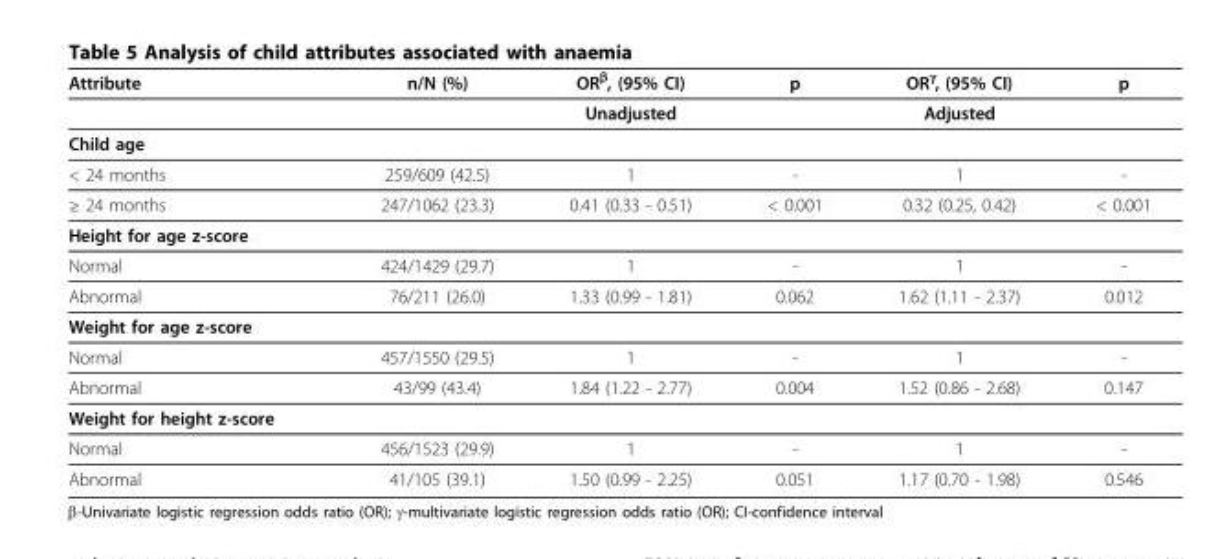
<table><thead><tr><td>Attribute</td><td>n/N (%)</td><td>ORβ, (95% CI)</td><td>p</td><td>ORγ, (95% CI)</td><td>p</td></tr></thead><tbody><tr><td></td><td></td><td>Unadjusted</td><td></td><td>Adjusted</td><td></td></tr><tr><td colspan="6">Child age</td></tr><tr><td>&lt; 24 months</td><td>259/609 (42.5)</td><td>1</td><td>-</td><td>1</td><td>-</td></tr><tr><td>≥ 24 months</td><td>247/1062 (23.3)</td><td>0.41 (0.33 - 0.51)</td><td>&lt; 0.001</td><td>0.32 (0.25, 0.42)</td><td>&lt; 0.001</td></tr><tr><td colspan="6">Height for age z-score</td></tr><tr><td>Normal</td><td>424/1429 (29.7)</td><td>1</td><td>-</td><td>1</td><td>-</td></tr><tr><td>Abnormal</td><td>76/211 (26.0)</td><td>1.33 (0.99 - 1.81)</td><td>0.062</td><td>1.62 (1.11 - 2.37)</td><td>0.012</td></tr><tr><td colspan="6">Weight for age z-score</td></tr><tr><td>Normal</td><td>457/1550 (29.5)</td><td>1</td><td>-</td><td>1</td><td>-</td></tr><tr><td>Abnormal</td><td>43/99 (43.4)</td><td>1.84 (1.22 - 2.77)</td><td>0.004</td><td>1.52 (0.86 - 2.68)</td><td>0.147</td></tr><tr><td colspan="6">Weight for height z-score</td></tr><tr><td>Normal</td><td>456/1523 (29.9)</td><td>1</td><td>-</td><td>1</td><td>-</td></tr><tr><td>Abnormal</td><td>41/105 (39.1)</td><td>1.50 (0.99 - 2.25)</td><td>0.051</td><td>1.17 (0.70 - 1.98)</td><td>0.546</td></tr></tbody></table>